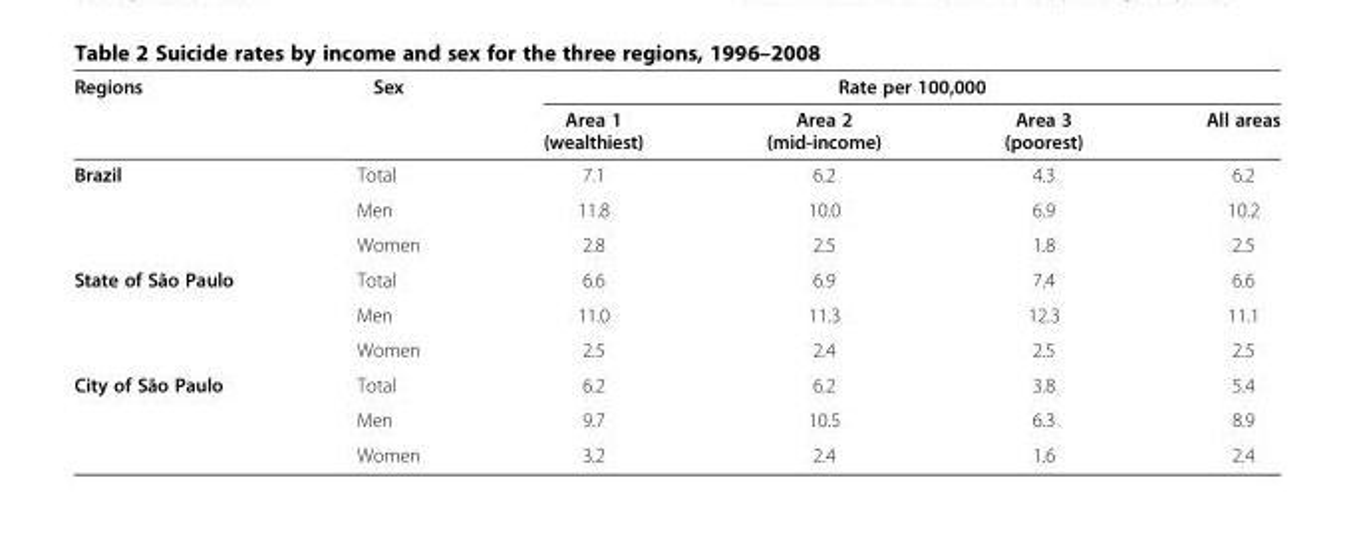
<table><thead><tr><td rowspan="2">Regions</td><td rowspan="2">Sex</td><td colspan="4">Rate per 100,000</td></tr><tr><td>Area 1 (wealthiest)</td><td>Area 2 (mid-income)</td><td>Area 3 (poorest)</td><td>All areas</td></tr></thead><tbody><tr><td rowspan="3">Brazil</td><td>Total</td><td>7.1</td><td>6.2</td><td>4.3</td><td>6.2</td></tr><tr><td>Men</td><td>11.8</td><td>10.0</td><td>6.9</td><td>10.2</td></tr><tr><td>Women</td><td>2.8</td><td>2.5</td><td>1.8</td><td>2.5</td></tr><tr><td rowspan="3">State of São Paulo</td><td>Total</td><td>6.6</td><td>6.9</td><td>7.4</td><td>6.6</td></tr><tr><td>Men</td><td>11.0</td><td>11.3</td><td>12.3</td><td>11.1</td></tr><tr><td>Women</td><td>2.5</td><td>2.4</td><td>2.5</td><td>2.5</td></tr><tr><td rowspan="3">City of São Paulo</td><td>Total</td><td>6.2</td><td>6.2</td><td>3.8</td><td>5.4</td></tr><tr><td>Men</td><td>9.7</td><td>10.5</td><td>6.3</td><td>8.9</td></tr><tr><td>Women</td><td>3.2</td><td>2.4</td><td>1.6</td><td>2.4</td></tr></tbody></table>